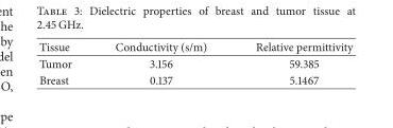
<table><thead><tr><td>Tissue</td><td>Conductivity (s/m)</td><td>Relative permittivity</td></tr></thead><tbody><tr><td>Tumor</td><td>3.156</td><td>59.385</td></tr><tr><td>Breast</td><td>0.137</td><td>5.1467</td></tr></tbody></table>